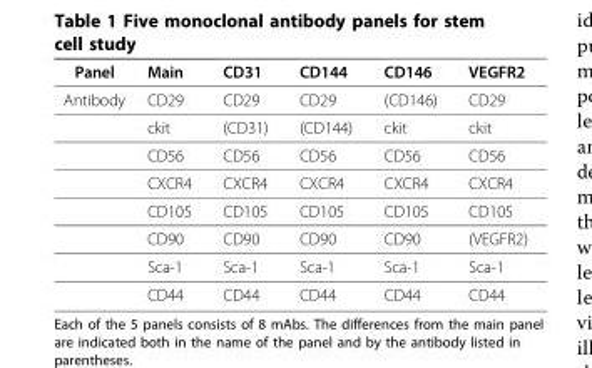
<table><thead><tr><td>Panel</td><td>Main</td><td>CD31</td><td>CD144</td><td>CD146</td><td>VEGFR2</td></tr></thead><tbody><tr><td rowspan="8">Antibody</td><td>CD29</td><td>CD29</td><td>CD29</td><td>(CD146)</td><td>CD29</td></tr><tr><td>ckit</td><td>(CD31)</td><td>(CD144)</td><td>ckit</td><td>ckit</td></tr><tr><td>CD56</td><td>CD56</td><td>CD56</td><td>CD56</td><td>CD56</td></tr><tr><td>CXCR4</td><td>CXCR4</td><td>CXCR4</td><td>CXCR4</td><td>CXCR4</td></tr><tr><td>CD105</td><td>CD105</td><td>CD105</td><td>CD105</td><td>CD105</td></tr><tr><td>CD90</td><td>CD90</td><td>CD90</td><td>CD90</td><td>(VEGFR2)</td></tr><tr><td>Sca-1</td><td>Sca-1</td><td>Sca-1</td><td>Sca-1</td><td>Sca-1</td></tr><tr><td>CD44</td><td>CD44</td><td>CD44</td><td>CD44</td><td>CD44</td></tr></tbody></table>